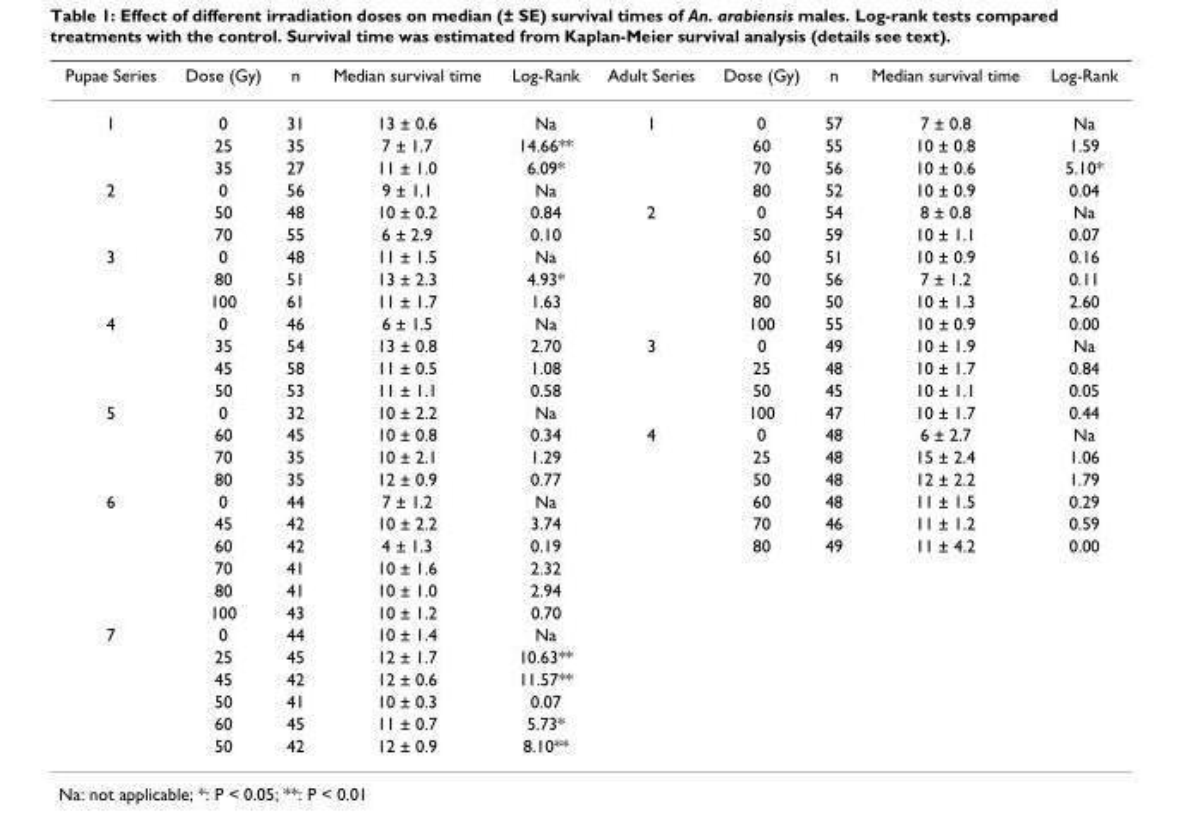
<table><thead><tr><td>Pupae Series</td><td>Dose (Gy)</td><td>n</td><td>Median survival time</td><td>Log-Rank</td><td>Adult Series</td><td>Dose (Gy)</td><td>n</td><td>Median survival time</td><td>Log-Rank</td></tr></thead><tbody><tr><td rowspan="3">1</td><td>0</td><td>31</td><td>13 ± 0.6</td><td>Na</td><td>1</td><td>0</td><td>57</td><td>7 ± 0.8</td><td>Na</td></tr><tr><td>25</td><td>35</td><td>7 ± 1.7</td><td>14.66**</td><td></td><td>60</td><td>55</td><td>10 ± 0.8</td><td>1.59</td></tr><tr><td>35</td><td>27</td><td>11 ± 1.0</td><td>6.09*</td><td></td><td>70</td><td>56</td><td>10 ± 0.6</td><td>5.10*</td></tr><tr><td rowspan="3">2</td><td>0</td><td>56</td><td>9 ± 1.1</td><td>Na</td><td></td><td>80</td><td>52</td><td>10 ± 0.9</td><td>0.04</td></tr><tr><td>50</td><td>48</td><td>10 ± 0.2</td><td>0.84</td><td>2</td><td>0</td><td>54</td><td>8 ± 0.8</td><td>Na</td></tr><tr><td>70</td><td>55</td><td>6 ± 2.9</td><td>0.10</td><td></td><td>50</td><td>59</td><td>10 ± 1.1</td><td>0.07</td></tr><tr><td rowspan="3">3</td><td>0</td><td>48</td><td>11 ± 1.5</td><td>Na</td><td></td><td>60</td><td>51</td><td>10 ± 0.9</td><td>0.16</td></tr><tr><td>80</td><td>51</td><td>13 ± 2.3</td><td>4.93*</td><td></td><td>70</td><td>56</td><td>7 ± 1.2</td><td>0.11</td></tr><tr><td>100</td><td>61</td><td>11 ± 1.7</td><td>1.63</td><td></td><td>80</td><td>50</td><td>10 ± 1.3</td><td>2.60</td></tr><tr><td rowspan="4">4</td><td>0</td><td>46</td><td>6 ± 1.5</td><td>Na</td><td></td><td>100</td><td>55</td><td>10 ± 0.9</td><td>0.00</td></tr><tr><td>35</td><td>54</td><td>13 ± 0.8</td><td>2.70</td><td>3</td><td>0</td><td>49</td><td>10 ± 1.9</td><td>Na</td></tr><tr><td>45</td><td>58</td><td>11 ± 0.5</td><td>1.08</td><td></td><td>25</td><td>48</td><td>10 ± 1.7</td><td>0.84</td></tr><tr><td>50</td><td>53</td><td>11 ± 1.1</td><td>0.58</td><td></td><td>50</td><td>45</td><td>10 ± 1.1</td><td>0.05</td></tr><tr><td rowspan="4">5</td><td>0</td><td>32</td><td>10 ± 2.2</td><td>Na</td><td></td><td>100</td><td>47</td><td>10 ± 1.7</td><td>0.44</td></tr><tr><td>60</td><td>45</td><td>10 ± 0.8</td><td>0.34</td><td>4</td><td>0</td><td>48</td><td>6 ± 2.7</td><td>Na</td></tr><tr><td>70</td><td>35</td><td>10 ± 2.1</td><td>1.29</td><td></td><td>25</td><td>48</td><td>15 ± 2.4</td><td>1.06</td></tr><tr><td>80</td><td>35</td><td>12 ± 0.9</td><td>0.77</td><td></td><td>50</td><td>48</td><td>12 ± 2.2</td><td>1.79</td></tr><tr><td rowspan="6">6</td><td>0</td><td>44</td><td>7 ± 1.2</td><td>Na</td><td></td><td>60</td><td>48</td><td>11 ± 1.5</td><td>0.29</td></tr><tr><td>45</td><td>42</td><td>10 ± 2.2</td><td>3.74</td><td></td><td>70</td><td>46</td><td>11 ± 1.2</td><td>0.59</td></tr><tr><td>60</td><td>42</td><td>4 ± 1.3</td><td>0.19</td><td></td><td>80</td><td>49</td><td>11 ± 4.2</td><td>0.00</td></tr><tr><td>70</td><td>41</td><td>10 ± 1.6</td><td>2.32</td><td></td><td></td><td></td><td></td><td></td></tr><tr><td>80</td><td>41</td><td>10 ± 1.0</td><td>2.94</td><td></td><td></td><td></td><td></td><td></td></tr><tr><td>100</td><td>43</td><td>10 ± 1.2</td><td>0.70</td><td></td><td></td><td></td><td></td><td></td></tr><tr><td rowspan="6">7</td><td>0</td><td>44</td><td>10 ± 1.4</td><td>Na</td><td></td><td></td><td></td><td></td><td></td></tr><tr><td>25</td><td>45</td><td>12 ± 1.7</td><td>10.63**</td><td></td><td></td><td></td><td></td><td></td></tr><tr><td>45</td><td>42</td><td>12 ± 0.6</td><td>11.57**</td><td></td><td></td><td></td><td></td><td></td></tr><tr><td>50</td><td>41</td><td>10 ± 0.3</td><td>0.07</td><td></td><td></td><td></td><td></td><td></td></tr><tr><td>60</td><td>45</td><td>11 ± 0.7</td><td>5.73*</td><td></td><td></td><td></td><td></td><td></td></tr><tr><td>50</td><td>42</td><td>12 ± 0.9</td><td>8.10**</td><td></td><td></td><td></td><td></td><td></td></tr></tbody></table>